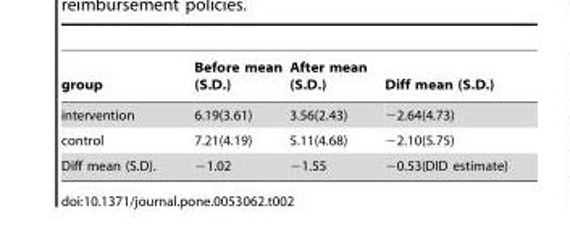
<table><thead><tr><td>group</td><td>Before mean (S.D.)</td><td>After mean (S.D.)</td><td>Diff mean (S.D.)</td></tr></thead><tbody><tr><td>intervention</td><td>6.19(3.61)</td><td>3.56(2.43)</td><td>−2.64(4.73)</td></tr><tr><td>control</td><td>7.21(4.19)</td><td>5.11(4.68)</td><td>−2.10(5.75)</td></tr><tr><td>Diff mean (S.D).</td><td>−1.02</td><td>−1.55</td><td>−0.53(DID estimate)</td></tr></tbody></table>